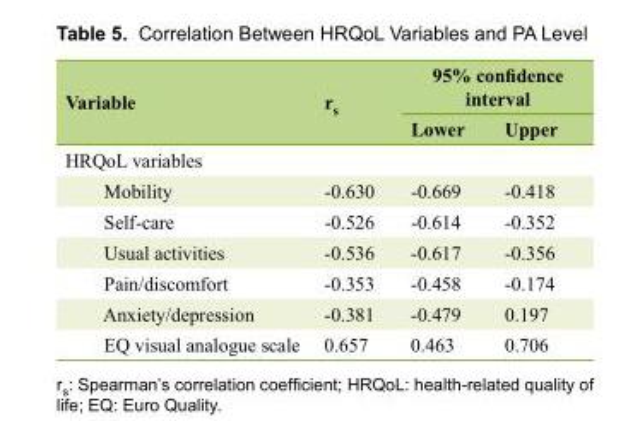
<table><thead><tr><td rowspan="2">Variable</td><td rowspan="2">r<sub>s</sub></td><td colspan="2">95% confidence interval</td></tr><tr><td>Lower</td><td>Upper</td></tr></thead><tbody><tr><td colspan="4">HRQoL variables</td></tr><tr><td>Mobility</td><td>-0.630</td><td>-0.669</td><td>-0.418</td></tr><tr><td>Self-care</td><td>-0.526</td><td>-0.614</td><td>-0.352</td></tr><tr><td>Usual activities</td><td>-0.536</td><td>-0.617</td><td>-0.356</td></tr><tr><td>Pain/discomfort</td><td>-0.353</td><td>-0.458</td><td>-0.174</td></tr><tr><td>Anxiety/depression</td><td>-0.381</td><td>-0.479</td><td>0.197</td></tr><tr><td>EQ visual analogue scale</td><td>0.657</td><td>0.463</td><td>0.706</td></tr></tbody></table>